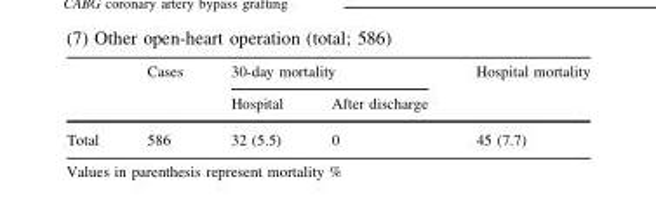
<table><thead><tr><td rowspan="2"></td><td rowspan="2">Cases</td><td colspan="2">30-day mortality</td><td rowspan="2">Hospital mortality</td></tr><tr><td>Hospital</td><td>After discharge</td></tr></thead><tbody><tr><td>Total</td><td>586</td><td>32 (5.5)</td><td>0</td><td>45 (7.7)</td></tr></tbody></table>